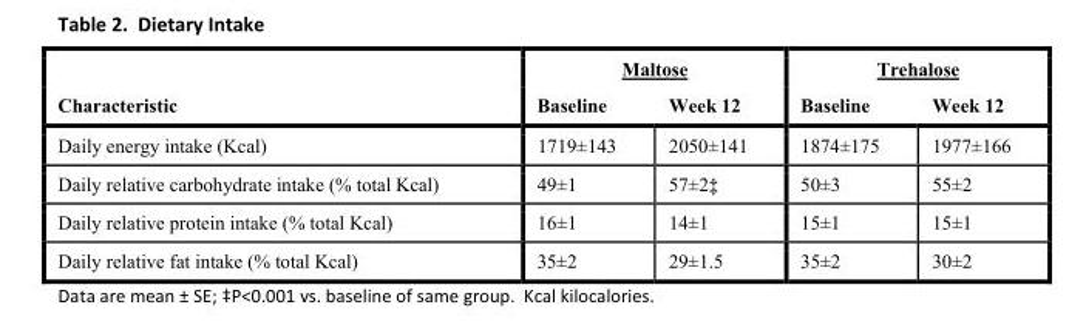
<table><thead><tr><td rowspan="2">Characteristic</td><td colspan="2">Maltose</td><td colspan="2">Trehalose</td></tr><tr><td>Baseline</td><td>Week 12</td><td>Baseline</td><td>Week 12</td></tr></thead><tbody><tr><td>Daily energy intake (Kcal)</td><td>1719±143</td><td>2050±141</td><td>1874±175</td><td>1977±166</td></tr><tr><td>Daily relative carbohydrate intake (% total Kcal)</td><td>49±1</td><td>57±2‡</td><td>50±3</td><td>55±2</td></tr><tr><td>Daily relative protein intake (% total Kcal)</td><td>16±1</td><td>14±1</td><td>15±1</td><td>15±1</td></tr><tr><td>Daily relative fat intake (% total Kcal)</td><td>35±2</td><td>29±1.5</td><td>35±2</td><td>30±2</td></tr></tbody></table>